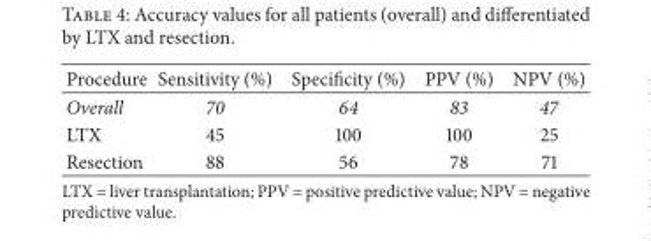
<table><thead><tr><td>Procedure</td><td>Sensitivity (%)</td><td>Specificity (%)</td><td>PPV (%)</td><td>NPV (%)</td></tr></thead><tbody><tr><td>Overall</td><td>70</td><td>64</td><td>83</td><td>47</td></tr><tr><td>LTX</td><td>45</td><td>100</td><td>100</td><td>25</td></tr><tr><td>Resection</td><td>88</td><td>56</td><td>78</td><td>71</td></tr></tbody></table>